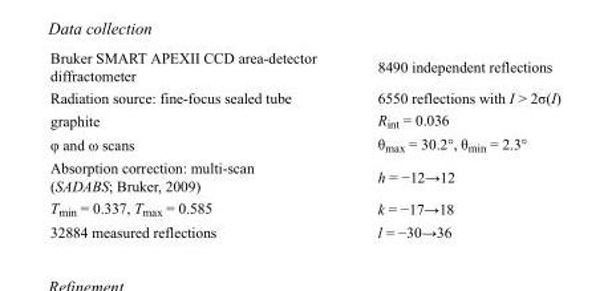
<table><tbody><tr><td>Bruker SMART APEXII CCD area-detector diffractometer</td><td>8490 independent reflections</td></tr><tr><td>Radiation source: fine-focus sealed tube</td><td>6550 reflections with I &gt; 2σ(I)</td></tr><tr><td>graphite</td><td>R<sub>int</sub> = 0.036</td></tr><tr><td>φ and ω scans</td><td>θ<sub>max</sub> = 30.2°, θ<sub>min</sub> = 2.3°</td></tr><tr><td>Absorption correction: multi-scan (SADABS; Bruker, 2009)</td><td>h = −12→12</td></tr><tr><td>T<sub>min</sub> = 0.337, T<sub>max</sub> = 0.585</td><td>k = −17→18</td></tr><tr><td>32884 measured reflections</td><td>l = −30→36</td></tr></tbody></table>